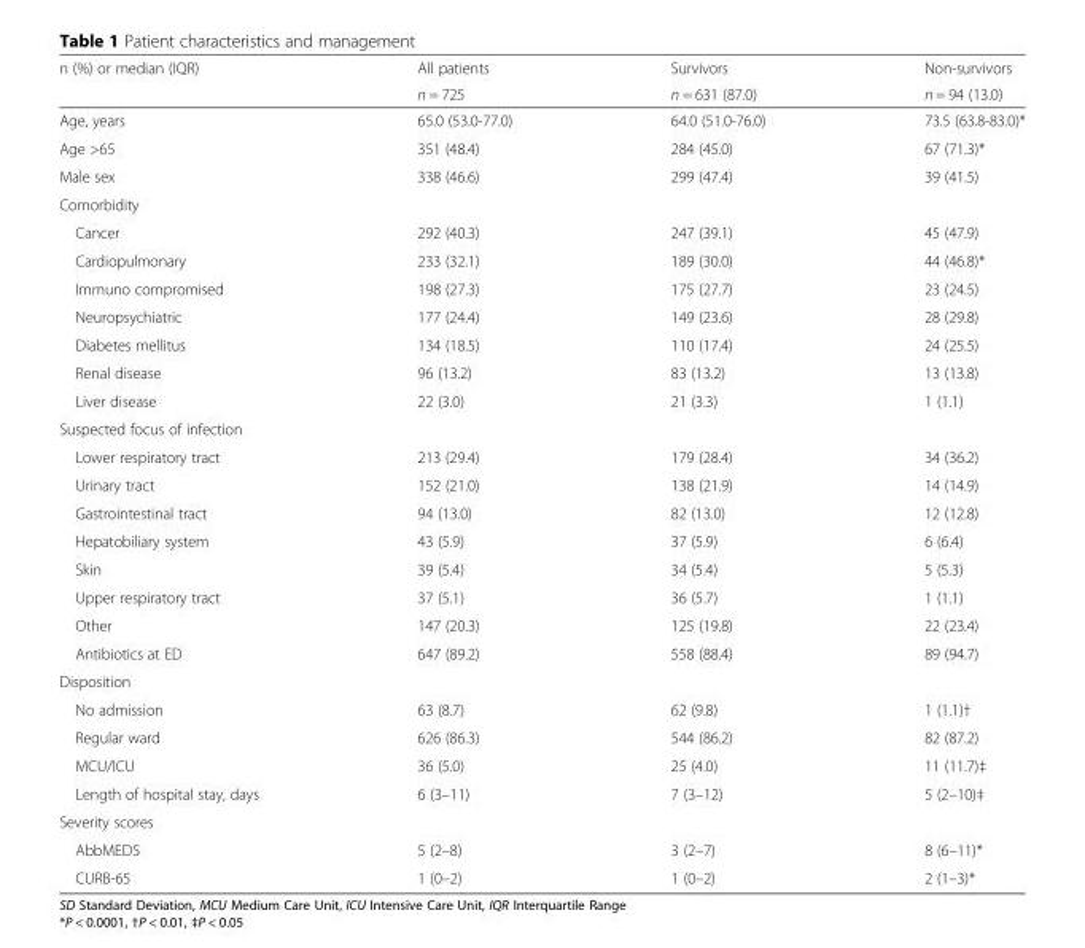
<table><thead><tr><td rowspan="2">n (%) or median (IQR)</td><td rowspan="2">All patients n = 725</td><td rowspan="2">Survivors n = 631 (87.0)</td><td rowspan="2">Non-survivors n = 94 (13.0)</td></tr><tr></tr></thead><tbody><tr><td>Age, years</td><td>65.0 (53.0-77.0)</td><td>64.0 (51.0-76.0)</td><td>73.5 (63.8-83.0)*</td></tr><tr><td>Age &gt;65</td><td>351 (48.4)</td><td>284 (45.0)</td><td>67 (71.3)*</td></tr><tr><td>Male sex</td><td>338 (46.6)</td><td>299 (47.4)</td><td>39 (41.5)</td></tr><tr><td colspan="4">Comorbidity</td></tr><tr><td>Cancer</td><td>292 (40.3)</td><td>247 (39.1)</td><td>45 (47.9)</td></tr><tr><td>Cardiopulmonary</td><td>233 (32.1)</td><td>189 (30.0)</td><td>44 (46.8)*</td></tr><tr><td>Immuno compromised</td><td>198 (27.3)</td><td>175 (27.7)</td><td>23 (24.5)</td></tr><tr><td>Neuropsychiatric</td><td>177 (24.4)</td><td>149 (23.6)</td><td>28 (29.8)</td></tr><tr><td>Diabetes mellitus</td><td>134 (18.5)</td><td>110 (17.4)</td><td>24 (25.5)</td></tr><tr><td>Renal disease</td><td>96 (13.2)</td><td>83 (13.2)</td><td>13 (13.8)</td></tr><tr><td>Liver disease</td><td>22 (3.0)</td><td>21 (3.3)</td><td>1 (1.1)</td></tr><tr><td colspan="4">Suspected focus of infection</td></tr><tr><td>Lower respiratory tract</td><td>213 (29.4)</td><td>179 (28.4)</td><td>34 (36.2)</td></tr><tr><td>Urinary tract</td><td>152 (21.0)</td><td>138 (21.9)</td><td>14 (14.9)</td></tr><tr><td>Gastrointestinal tract</td><td>94 (13.0)</td><td>82 (13.0)</td><td>12 (12.8)</td></tr><tr><td>Hepatobiliary system</td><td>43 (5.9)</td><td>37 (5.9)</td><td>6 (6.4)</td></tr><tr><td>Skin</td><td>39 (5.4)</td><td>34 (5.4)</td><td>5 (5.3)</td></tr><tr><td>Upper respiratory tract</td><td>37 (5.1)</td><td>36 (5.7)</td><td>1 (1.1)</td></tr><tr><td>Other</td><td>147 (20.3)</td><td>125 (19.8)</td><td>22 (23.4)</td></tr><tr><td>Antibiotics at ED</td><td>647 (89.2)</td><td>558 (88.4)</td><td>89 (94.7)</td></tr><tr><td colspan="4">Disposition</td></tr><tr><td>No admission</td><td>63 (8.7)</td><td>62 (9.8)</td><td>1 (1.1)†</td></tr><tr><td>Regular ward</td><td>626 (86.3)</td><td>544 (86.2)</td><td>82 (87.2)</td></tr><tr><td>MCU/ICU</td><td>36 (5.0)</td><td>25 (4.0)</td><td>11 (11.7)‡</td></tr><tr><td>Length of hospital stay, days</td><td>6 (3–11)</td><td>7 (3–12)</td><td>5 (2–10)‡</td></tr><tr><td colspan="4">Severity scores</td></tr><tr><td>AbbMEDS</td><td>5 (2–8)</td><td>3 (2–7)</td><td>8 (6–11)*</td></tr><tr><td>CURB-65</td><td>1 (0–2)</td><td>1 (0–2)</td><td>2 (1–3)*</td></tr></tbody></table>